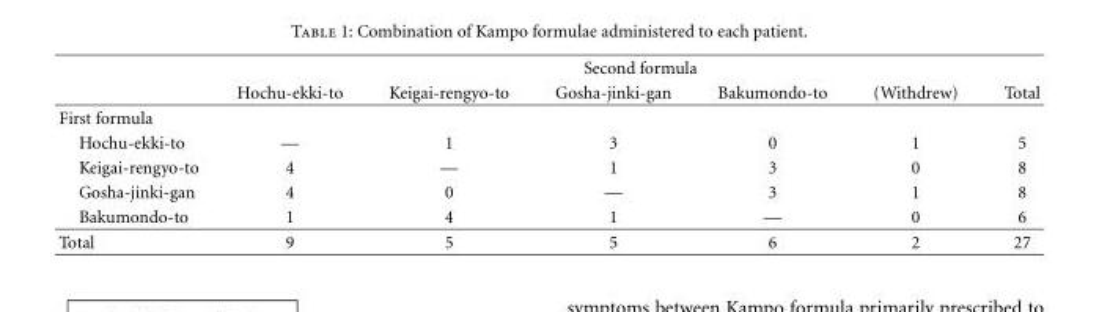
<table><thead><tr><td rowspan="2"></td><td colspan="6">Second formula</td></tr><tr><td>Hochu-ekki-to</td><td>Keigai-rengyo-to</td><td>Gosha-jinki-gan</td><td>Bakumondo-to</td><td>(Withdrew)</td><td>Total</td></tr></thead><tbody><tr><td colspan="7">First formula</td></tr><tr><td>Hochu-ekki-to</td><td>—</td><td>1</td><td>3</td><td>0</td><td>1</td><td>5</td></tr><tr><td>Keigai-rengyo-to</td><td>4</td><td>—</td><td>1</td><td>3</td><td>0</td><td>8</td></tr><tr><td>Gosha-jinki-gan</td><td>4</td><td>0</td><td>—</td><td>3</td><td>1</td><td>8</td></tr><tr><td>Bakumondo-to</td><td>1</td><td>4</td><td>1</td><td>—</td><td>0</td><td>6</td></tr><tr><td>Total</td><td>9</td><td>5</td><td>5</td><td>6</td><td>2</td><td>27</td></tr></tbody></table>